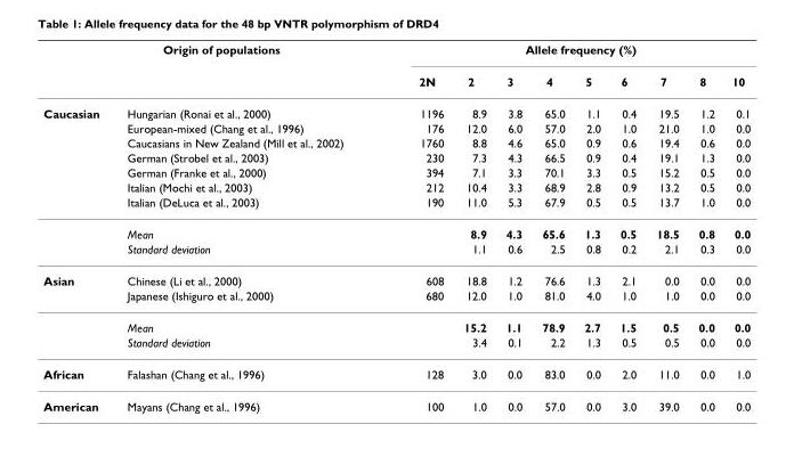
<table><thead><tr><td colspan="2">Origin of populations</td><td colspan="9">Allele frequency (%)</td></tr><tr><td></td><td></td><td>2N</td><td>2</td><td>3</td><td>4</td><td>5</td><td>6</td><td>7</td><td>8</td><td>10</td></tr></thead><tbody><tr><td rowspan="9">Caucasian</td><td>Hungarian (Ronai et al., 2000)</td><td>1196</td><td>8.9</td><td>3.8</td><td>65.0</td><td>1.1</td><td>0.4</td><td>19.5</td><td>1.2</td><td>0.1</td></tr><tr><td>European-mixed (Chang et al., 1996)</td><td>176</td><td>12.0</td><td>6.0</td><td>57.0</td><td>2.0</td><td>1.0</td><td>21.0</td><td>1.0</td><td>0.0</td></tr><tr><td>Caucasians in New Zealand (Mill et al., 2002)</td><td>1760</td><td>8.8</td><td>4.6</td><td>65.0</td><td>0.9</td><td>0.6</td><td>19.4</td><td>0.6</td><td>0.0</td></tr><tr><td>German (Strobel et al., 2003)</td><td>230</td><td>7.3</td><td>4.3</td><td>66.5</td><td>0.9</td><td>0.4</td><td>19.1</td><td>1.3</td><td>0.0</td></tr><tr><td>German (Franke et al., 2000)</td><td>394</td><td>7.1</td><td>3.3</td><td>70.1</td><td>3.3</td><td>0.5</td><td>15.2</td><td>0.5</td><td>0.0</td></tr><tr><td>Italian (Mochi et al., 2003)</td><td>212</td><td>10.4</td><td>3.3</td><td>68.9</td><td>2.8</td><td>0.9</td><td>13.2</td><td>0.5</td><td>0.0</td></tr><tr><td>Italian (DeLuca et al., 2003)</td><td>190</td><td>11.0</td><td>5.3</td><td>67.9</td><td>0.5</td><td>0.5</td><td>13.7</td><td>1.0</td><td>0.0</td></tr><tr><td>Mean</td><td></td><td>8.9</td><td>4.3</td><td>65.6</td><td>1.3</td><td>0.5</td><td>18.5</td><td>0.8</td><td>0.0</td></tr><tr><td>Standard deviation</td><td></td><td>1.1</td><td>0.6</td><td>2.5</td><td>0.8</td><td>0.2</td><td>2.1</td><td>0.3</td><td>0.0</td></tr><tr><td rowspan="4">Asian</td><td>Chinese (Li et al., 2000)</td><td>608</td><td>18.8</td><td>1.2</td><td>76.6</td><td>1.3</td><td>2.1</td><td>0.0</td><td>0.0</td><td>0.0</td></tr><tr><td>Japanese (Ishiguro et al., 2000)</td><td>680</td><td>12.0</td><td>1.0</td><td>81.0</td><td>4.0</td><td>1.0</td><td>1.0</td><td>0.0</td><td>0.0</td></tr><tr><td>Mean</td><td></td><td>15.2</td><td>1.1</td><td>78.9</td><td>2.7</td><td>1.5</td><td>0.5</td><td>0.0</td><td>0.0</td></tr><tr><td>Standard deviation</td><td></td><td>3.4</td><td>0.1</td><td>2.2</td><td>1.3</td><td>0.5</td><td>0.5</td><td>0.0</td><td>0.0</td></tr><tr><td>African</td><td>Falashan (Chang et al., 1996)</td><td>128</td><td>3.0</td><td>0.0</td><td>83.0</td><td>0.0</td><td>2.0</td><td>11.0</td><td>0.0</td><td>1.0</td></tr><tr><td>American</td><td>Mayans (Chang et al., 1996)</td><td>100</td><td>1.0</td><td>0.0</td><td>57.0</td><td>0.0</td><td>3.0</td><td>39.0</td><td>0.0</td><td>0.0</td></tr></tbody></table>